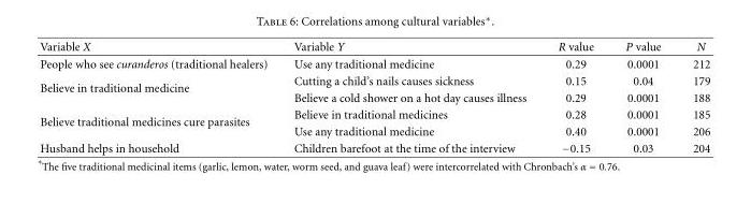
<table><thead><tr><td>Variable X</td><td>Variable Y</td><td>R value</td><td>P value</td><td>N</td></tr></thead><tbody><tr><td>People who see curanderos (traditional healers)</td><td>Use any traditional medicine</td><td>0.29</td><td>0.0001</td><td>212</td></tr><tr><td rowspan="2">Believe in traditional medicine</td><td>Cutting a child’s nails causes sickness</td><td>0.15</td><td>0.04</td><td>179</td></tr><tr><td>Believe a cold shower on a hot day causes illness</td><td>0.29</td><td>0.0001</td><td>188</td></tr><tr><td rowspan="2">Believe traditional medicines cure parasites</td><td>Believe in traditional medicines</td><td>0.28</td><td>0.0001</td><td>185</td></tr><tr><td>Use any traditional medicine</td><td>0.40</td><td>0.0001</td><td>206</td></tr><tr><td>Husband helps in household</td><td>Children barefoot at the time of the interview</td><td>−0.15</td><td>0.03</td><td>204</td></tr></tbody></table>